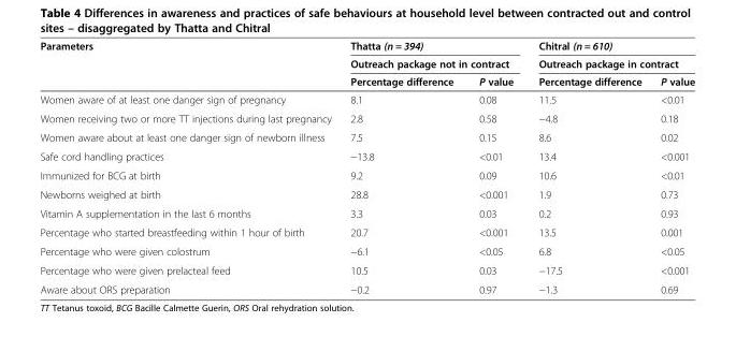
<table><thead><tr><td rowspan="3">Parameters</td><td rowspan="2" colspan="2">Thatta (n = 394) Outreach package not in contract</td><td rowspan="2" colspan="2">Chitral (n = 610) Outreach package in contract</td></tr><tr></tr><tr><td>Percentage difference</td><td>P value</td><td>Percentage difference</td><td>P value</td></tr></thead><tbody><tr><td>Women aware of at least one danger sign of pregnancy</td><td>8.1</td><td>0.08</td><td>11.5</td><td>&lt;0.01</td></tr><tr><td>Women receiving two or more TT injections during last pregnancy</td><td>2.8</td><td>0.58</td><td>−4.8</td><td>0.18</td></tr><tr><td>Women aware about at least one danger sign of newborn illness</td><td>7.5</td><td>0.15</td><td>8.6</td><td>0.02</td></tr><tr><td>Safe cord handling practices</td><td>−13.8</td><td>&lt;0.01</td><td>13.4</td><td>&lt;0.001</td></tr><tr><td>Immunized for BCG at birth</td><td>9.2</td><td>0.09</td><td>10.6</td><td>&lt;0.01</td></tr><tr><td>Newborns weighed at birth</td><td>28.8</td><td>&lt;0.001</td><td>1.9</td><td>0.73</td></tr><tr><td>Vitamin A supplementation in the last 6 months</td><td>3.3</td><td>0.03</td><td>0.2</td><td>0.93</td></tr><tr><td>Percentage who started breastfeeding within 1 hour of birth</td><td>20.7</td><td>&lt;0.001</td><td>13.5</td><td>0.001</td></tr><tr><td>Percentage who were given colostrum</td><td>−6.1</td><td>&lt;0.05</td><td>6.8</td><td>&lt;0.05</td></tr><tr><td>Percentage who were given prelacteal feed</td><td>10.5</td><td>0.03</td><td>−17.5</td><td>&lt;0.001</td></tr><tr><td>Aware about ORS preparation</td><td>−0.2</td><td>0.97</td><td>−1.3</td><td>0.69</td></tr></tbody></table>